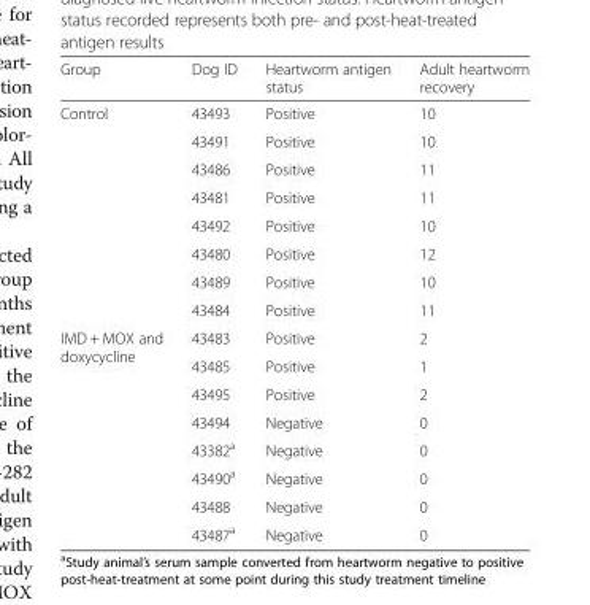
<table><thead><tr><td>Group</td><td>Dog ID</td><td>Heartworm antigen status</td><td>Adult heartworm recovery</td></tr></thead><tbody><tr><td rowspan="8">Control</td><td>43493</td><td>Positive</td><td>10</td></tr><tr><td>43491</td><td>Positive</td><td>10</td></tr><tr><td>43486</td><td>Positive</td><td>11</td></tr><tr><td>43481</td><td>Positive</td><td>11</td></tr><tr><td>43492</td><td>Positive</td><td>10</td></tr><tr><td>43480</td><td>Positive</td><td>12</td></tr><tr><td>43489</td><td>Positive</td><td>10</td></tr><tr><td>43484</td><td>Positive</td><td>11</td></tr><tr><td rowspan="8">IMD + MOX and doxycycline</td><td>43483</td><td>Positive</td><td>2</td></tr><tr><td>43485</td><td>Positive</td><td>1</td></tr><tr><td>43495</td><td>Positive</td><td>2</td></tr><tr><td>43494</td><td>Negative</td><td>0</td></tr><tr><td>43382<sup>a</sup></td><td>Negative</td><td>0</td></tr><tr><td>43490<sup>a</sup></td><td>Negative</td><td>0</td></tr><tr><td>43488</td><td>Negative</td><td>0</td></tr><tr><td>43487<sup>a</sup></td><td>Negative</td><td>0</td></tr></tbody></table>